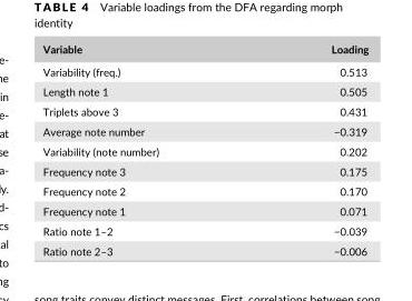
<table><thead><tr><td>Variable</td><td>Loading</td></tr></thead><tbody><tr><td>Variability (freq.)</td><td>0.513</td></tr><tr><td>Length note 1</td><td>0.505</td></tr><tr><td>Triplets above 3</td><td>0.431</td></tr><tr><td>Average note number</td><td>−0.319</td></tr><tr><td>Variability (note number)</td><td>0.202</td></tr><tr><td>Frequency note 3</td><td>0.175</td></tr><tr><td>Frequency note 2</td><td>0.170</td></tr><tr><td>Frequency note 1</td><td>0.071</td></tr><tr><td>Ratio note 1–2</td><td>−0.039</td></tr><tr><td>Ratio note 2–3</td><td>−0.006</td></tr></tbody></table>